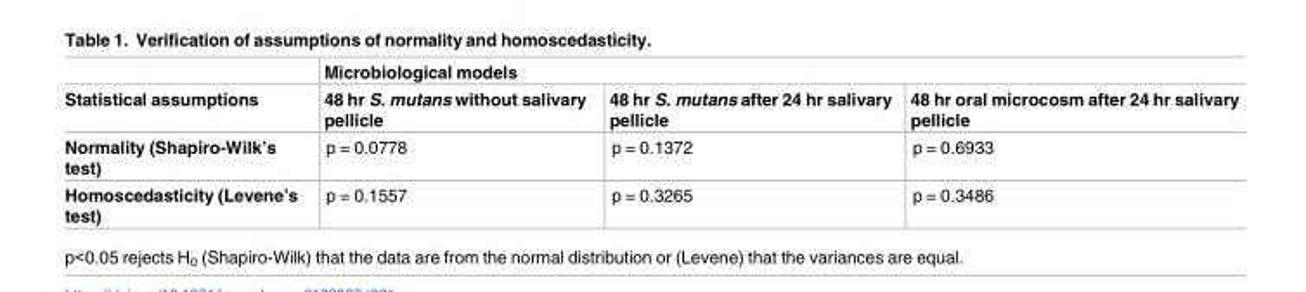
<table><thead><tr><td rowspan="2">Statistical assumptions</td><td colspan="3">Microbiological models</td></tr><tr><td>48 hr S. mutans without salivary pellicle</td><td>48 hr S. mutans after 24 hr salivary pellicle</td><td>48 hr oral microcosm after 24 hr salivary pellicle</td></tr></thead><tbody><tr><td>Normality (Shapiro-Wilk’s test)</td><td>p = 0.0778</td><td>p = 0.1372</td><td>p = 0.6933</td></tr><tr><td>Homoscedasticity (Levene’s test)</td><td>p = 0.1557</td><td>p = 0.3265</td><td>p = 0.3486</td></tr></tbody></table>